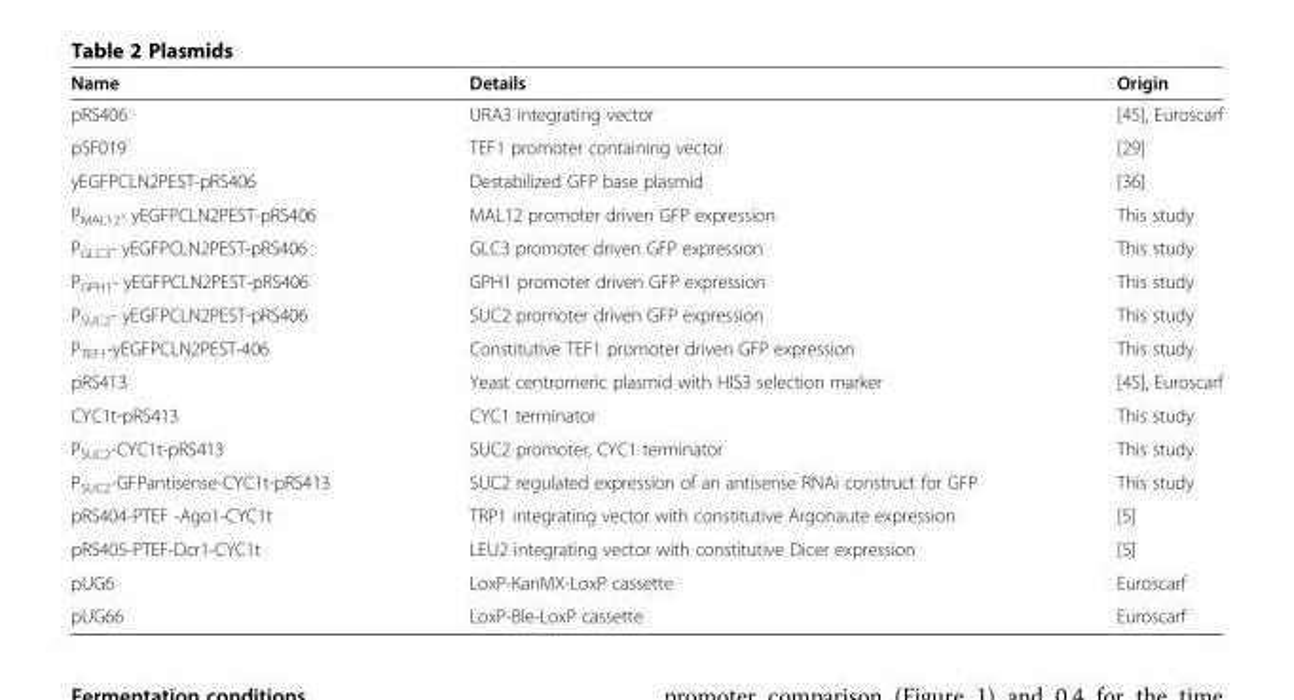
<table><thead><tr><td>Name</td><td>Details</td><td>Origin</td></tr></thead><tbody><tr><td>pRS406</td><td>URA3 integrating vector</td><td>[45], Euroscarf</td></tr><tr><td>pSF019</td><td>TEF1 promoter containing vector</td><td>[29]</td></tr><tr><td>yEGFPCLN2PEST-pRS406</td><td>Destabilized GFP base plasmid</td><td>[36]</td></tr><tr><td>P<sub>MAL12</sub>- yEGFPCLN2PEST-pRS406</td><td>MAL12 promoter driven GFP expression</td><td>This study</td></tr><tr><td>P<sub>GLC3</sub>- yEGFPCLN2PEST-pRS406</td><td>GLC3 promoter driven GFP expression</td><td>This study</td></tr><tr><td>P<sub>GPH1</sub>- yEGFPCLN2PEST-pRS406</td><td>GPH1 promoter driven GFP expression</td><td>This study</td></tr><tr><td>P<sub>SUC2</sub>- yEGFPCLN2PEST-pRS406</td><td>SUC2 promoter driven GFP expression</td><td>This study</td></tr><tr><td>P<sub>TEF1</sub>-yEGFPCLN2PEST-406</td><td>Constitutive TEF1 promoter driven GFP expression</td><td>This study</td></tr><tr><td>pRS413</td><td>Yeast centromeric plasmid with HIS3 selection marker</td><td>[45], Euroscarf</td></tr><tr><td>CYC1t-pRS413</td><td>CYC1 terminator</td><td>This study</td></tr><tr><td>P<sub>SUC2</sub>-CYC1t-pRS413</td><td>SUC2 promoter, CYC1 terminator</td><td>This study</td></tr><tr><td>P<sub>SUC2</sub>-GFPantisense-CYC1t-pRS413</td><td>SUC2 regulated expression of an antisense RNAi construct for GFP</td><td>This study</td></tr><tr><td>pRS404-PTEF -Ago1-CYC1t</td><td>TRP1 integrating vector with constitutive Argonaute expression</td><td>[5]</td></tr><tr><td>pRS405-PTEF-Dcr1-CYC1t</td><td>LEU2 integrating vector with constitutive Dicer expression</td><td>[5]</td></tr><tr><td>pUG6</td><td>LoxP-KanMX-LoxP cassette</td><td>Euroscarf</td></tr><tr><td>pUG66</td><td>LoxP-Ble-LoxP cassette</td><td>Euroscarf</td></tr></tbody></table>